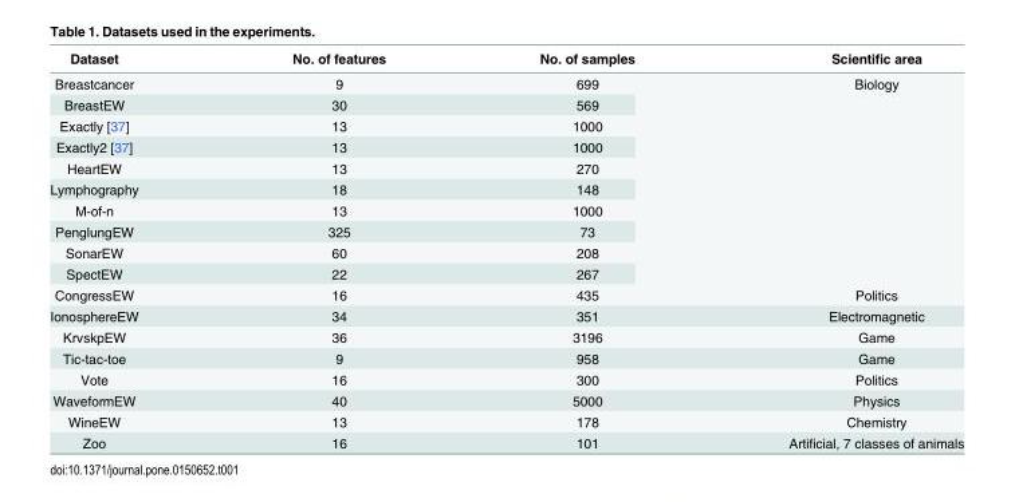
<table><thead><tr><td>Dataset</td><td>No. of features</td><td>No. of samples</td><td>Scientific area</td></tr></thead><tbody><tr><td>Breastcancer</td><td>9</td><td>699</td><td rowspan="10">Biology</td></tr><tr><td>BreastEW</td><td>30</td><td>569</td></tr><tr><td>Exactly [37]</td><td>13</td><td>1000</td></tr><tr><td>Exactly2 [37]</td><td>13</td><td>1000</td></tr><tr><td>HeartEW</td><td>13</td><td>270</td></tr><tr><td>Lymphography</td><td>18</td><td>148</td></tr><tr><td>M-of-n</td><td>13</td><td>1000</td></tr><tr><td>PenglungEW</td><td>325</td><td>73</td></tr><tr><td>SonarEW</td><td>60</td><td>208</td></tr><tr><td>SpectEW</td><td>22</td><td>267</td></tr><tr><td>CongressEW</td><td>16</td><td>435</td><td>Politics</td></tr><tr><td>IonosphereEW</td><td>34</td><td>351</td><td>Electromagnetic</td></tr><tr><td>KrvskpEW</td><td>36</td><td>3196</td><td>Game</td></tr><tr><td>Tic-tac-toe</td><td>9</td><td>958</td><td>Game</td></tr><tr><td>Vote</td><td>16</td><td>300</td><td>Politics</td></tr><tr><td>WaveformEW</td><td>40</td><td>5000</td><td>Physics</td></tr><tr><td>WineEW</td><td>13</td><td>178</td><td>Chemistry</td></tr><tr><td>Zoo</td><td>16</td><td>101</td><td>Artificial, 7 classes of animals</td></tr></tbody></table>